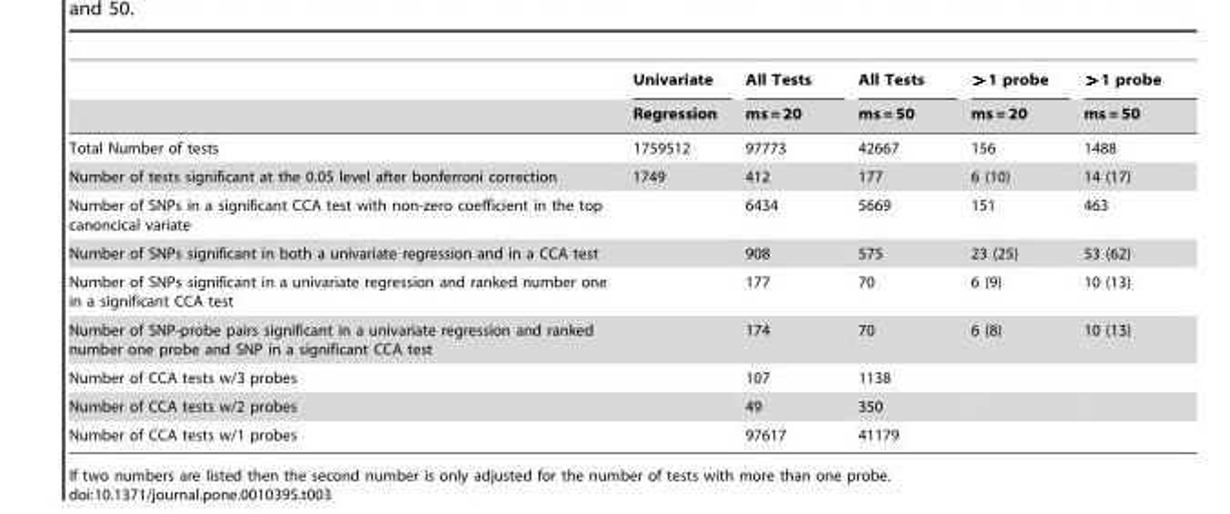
<table><thead><tr><td rowspan="2"></td><td rowspan="2">Univariate Regression</td><td rowspan="2">All Tests ms = 20</td><td rowspan="2">All Tests ms = 50</td><td rowspan="2">w w w w1 probe ms = 20</td><td rowspan="2">w w w w w1 probe ms = 50</td></tr><tr></tr></thead><tbody><tr><td>Total Number of tests</td><td>1759512</td><td>97773</td><td>42667</td><td>156</td><td>1488</td></tr><tr><td>Number of tests significant at the 0.05 level after bonferroni correction</td><td>1749</td><td>412</td><td>177</td><td>6 (10)</td><td>14 (17)</td></tr><tr><td>Number of SNPs in a significant CCA test with non-zero coefficient in the top canoncical variate</td><td></td><td>6434</td><td>5669</td><td>151</td><td>463</td></tr><tr><td>Number of SNPs significant in both a univariate regression and in a CCA test</td><td></td><td>908</td><td>575</td><td>23 (25)</td><td>53 (62)</td></tr><tr><td>Number of SNPs significant in a univariate regression and ranked number one in a significant CCA test</td><td></td><td>177</td><td>70</td><td>6 (9)</td><td>10 (13)</td></tr><tr><td>Number of SNP-probe pairs significant in a univariate regression and ranked number one probe and SNP in a significant CCA test</td><td></td><td>174</td><td>70</td><td>6 (8)</td><td>10 (13)</td></tr><tr><td>Number of CCA tests w/3 probes</td><td></td><td>107</td><td>1138</td><td></td><td></td></tr><tr><td>Number of CCA tests w/2 probes</td><td></td><td>49</td><td>350</td><td></td><td></td></tr><tr><td>Number of CCA tests w/1 probes</td><td></td><td>97617</td><td>41179</td><td></td><td></td></tr></tbody></table>